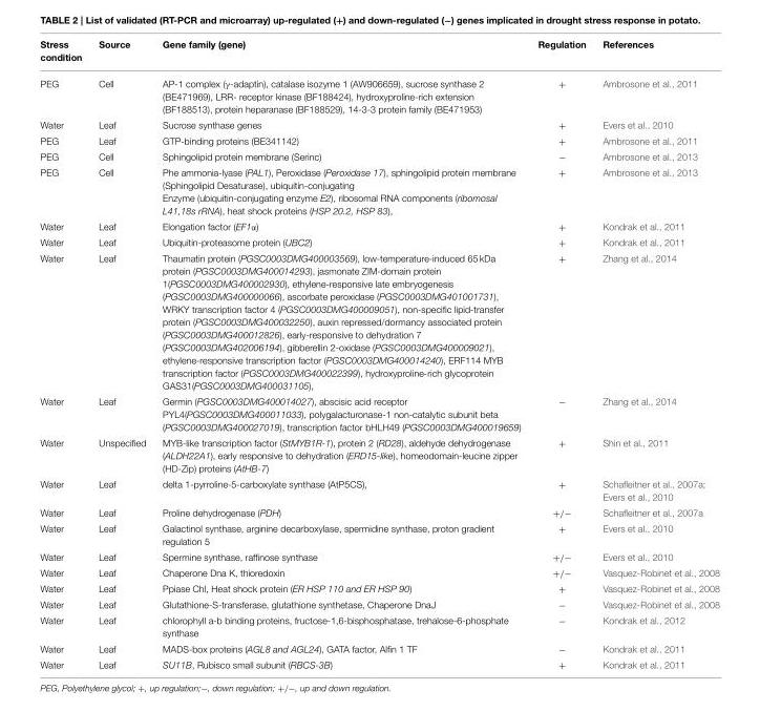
<table><thead><tr><td>Stress condition</td><td>Source</td><td>Gene family (gene)</td><td>Regulation</td><td>References</td></tr></thead><tbody><tr><td>PEG</td><td>Cell</td><td>AP-1 complex (γ-adaptin), catalase isozyme 1 (AW906659), sucrose synthase 2 (BE471969), LRR- receptor kinase (BF188424), hydroxyproline-rich extension (BF188513), protein heparanase (BF188529), 14-3-3 protein family (BE471953)</td><td>+</td><td>Ambrosone et al., 2011</td></tr><tr><td>Water</td><td>Leaf</td><td>Sucrose synthase genes</td><td>+</td><td>Evers et al., 2010</td></tr><tr><td>PEG</td><td>Leaf</td><td>GTP-binding proteins (BE341142)</td><td>+</td><td>Ambrosone et al., 2011</td></tr><tr><td>PEG</td><td>Cell</td><td>Sphingolipid protein membrane (Serinc)</td><td>−</td><td>Ambrosone et al., 2013</td></tr><tr><td>PEG</td><td>Cell</td><td>Phe ammonia-lyase (PAL1), Peroxidase (Peroxidase 17), sphingolipid protein membrane (Sphingolipid Desaturase), ubiquitin-conjugating Enzyme (ubiquitin-conjugating enzyme E2), ribosomal RNA components (ribomosal L41,18s rRNA), heat shock proteins (HSP 20.2, HSP 83),</td><td>+</td><td>Ambrosone et al., 2013</td></tr><tr><td>Water</td><td>Leaf</td><td>Elongation factor (EF1α)</td><td>+</td><td>Kondrak et al., 2011</td></tr><tr><td>Water</td><td>Leaf</td><td>Ubiquitin-proteasome protein (UBC2)</td><td>+</td><td>Kondrak et al., 2011</td></tr><tr><td>Water</td><td>Leaf</td><td>Thaumatin protein (PGSC0003DMG400003569), low-temperature-induced 65 kDa protein (PGSC0003DMG400014293), jasmonate ZIM-domain protein 1(PGSC0003DMG400002930), ethylene-responsive late embryogenesis (PGSC0003DMG400000066), ascorbate peroxidase (PGSC0003DMG401001731), WRKY transcription factor 4 (PGSC0003DMG400009051), non-specific lipid-transfer protein (PGSC0003DMG400032250), auxin repressed/dormancy associated protein (PGSC0003DMG400012826), early-responsive to dehydration 7 (PGSC0003DMG402006194), gibberellin 2-oxidase (PGSC0003DMG400009021), ethylene-responsive transcription factor (PGSC0003DMG400014240), ERF114 MYB transcription factor (PGSC0003DMG400022399), hydroxyproline-rich glycoprotein GAS31(PGSC0003DMG400031105),</td><td>+</td><td>Zhang et al., 2014</td></tr><tr><td>Water</td><td>Leaf</td><td>Germin (PGSC0003DMG400014027), abscisic acid receptor PYL4(PGSC0003DMG400011033), polygalacturonase-1 non-catalytic subunit beta (PGSC0003DMG400027019), transcription factor bHLH49 (PGSC0003DMG400019659)</td><td>−</td><td>Zhang et al., 2014</td></tr><tr><td>Water</td><td>Unspecified</td><td>MYB-like transcription factor (StMYB1R-1), protein 2 (RD28), aldehyde dehydrogenase (ALDH22A1), early responsive to dehydration (ERD15-like), homeodomain-leucine zipper (HD-Zip) proteins (AtHB-7)</td><td>+</td><td>Shin et al., 2011</td></tr><tr><td>Water</td><td>Leaf</td><td>delta 1-pyrroline-5-carboxylate synthase (AtP5CS),</td><td>+</td><td>Schafleitner et al., 2007a; Evers et al., 2010</td></tr><tr><td>Water</td><td>Leaf</td><td>Proline dehydrogenase (PDH)</td><td>+/−</td><td>Schafleitner et al., 2007a</td></tr><tr><td>Water</td><td>Leaf</td><td>Galactinol synthase, arginine decarboxylase, spermidine synthase, proton gradient regulation 5</td><td>+</td><td>Evers et al., 2010</td></tr><tr><td>Water</td><td>Leaf</td><td>Spermine synthase, raffinose synthase</td><td>+/−</td><td>Evers et al., 2010</td></tr><tr><td>Water</td><td>Leaf</td><td>Chaperone Dna K, thioredoxin</td><td>+/−</td><td>Vasquez-Robinet et al., 2008</td></tr><tr><td>Water</td><td>Leaf</td><td>Ppiase Chl, Heat shock protein (ER HSP 110 and ER HSP 90)</td><td>+</td><td>Vasquez-Robinet et al., 2008</td></tr><tr><td>Water</td><td>Leaf</td><td>Glutathione-S-transferase, glutathione synthetase, Chaperone DnaJ</td><td>−</td><td>Vasquez-Robinet et al., 2008</td></tr><tr><td>Water</td><td>Leaf</td><td>chlorophyll a-b binding proteins, fructose-1,6-bisphosphatase, trehalose-6-phosphate synthase</td><td>−</td><td>Kondrak et al., 2012</td></tr><tr><td>Water</td><td>Leaf</td><td>MADS-box proteins (AGL8 and AGL24), GATA factor, Alfin 1 TF</td><td>−</td><td>Kondrak et al., 2011</td></tr><tr><td>Water</td><td>Leaf</td><td>SU11B, Rubisco small subunit (RBCS-3B)</td><td>+</td><td>Kondrak et al., 2011</td></tr></tbody></table>